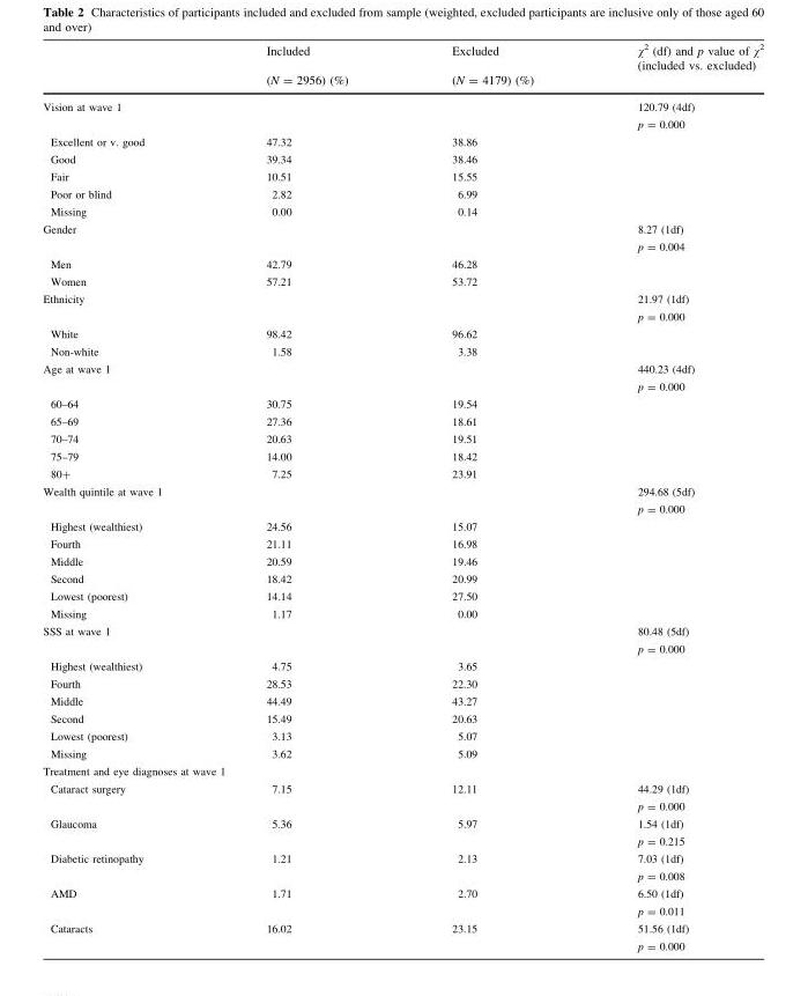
<table><thead><tr><td rowspan="2"></td><td rowspan="2">Included (N = 2956) (%)</td><td rowspan="2">Excluded (N = 4179) (%)</td><td rowspan="2">χ<sup>2</sup> (df) and p value of χ<sup>2</sup> (included vs. excluded)</td></tr><tr></tr></thead><tbody><tr><td>Vision at wave 1</td><td></td><td></td><td>120.79 (4df) p = 0.000</td></tr><tr><td>Excellent or v. good</td><td>47.32</td><td>38.86</td><td></td></tr><tr><td>Good</td><td>39.34</td><td>38.46</td><td></td></tr><tr><td>Fair</td><td>10.51</td><td>15.55</td><td></td></tr><tr><td>Poor or blind</td><td>2.82</td><td>6.99</td><td></td></tr><tr><td>Missing</td><td>0.00</td><td>0.14</td><td></td></tr><tr><td>Gender</td><td></td><td></td><td>8.27 (1df) p = 0.004</td></tr><tr><td>Men</td><td>42.79</td><td>46.28</td><td></td></tr><tr><td>Women</td><td>57.21</td><td>53.72</td><td></td></tr><tr><td>Ethnicity</td><td></td><td></td><td>21.97 (1df) p = 0.000</td></tr><tr><td>White</td><td>98.42</td><td>96.62</td><td></td></tr><tr><td>Non-white</td><td>1.58</td><td>3.38</td><td></td></tr><tr><td>Age at wave 1</td><td></td><td></td><td>440.23 (4df) p = 0.000</td></tr><tr><td>60–64</td><td>30.75</td><td>19.54</td><td></td></tr><tr><td>65–69</td><td>27.36</td><td>18.61</td><td></td></tr><tr><td>70–74</td><td>20.63</td><td>19.51</td><td></td></tr><tr><td>75–79</td><td>14.00</td><td>18.42</td><td></td></tr><tr><td>80+</td><td>7.25</td><td>23.91</td><td></td></tr><tr><td>Wealth quintile at wave 1</td><td></td><td></td><td>294.68 (5df) p = 0.000</td></tr><tr><td>Highest (wealthiest)</td><td>24.56</td><td>15.07</td><td></td></tr><tr><td>Fourth</td><td>21.11</td><td>16.98</td><td></td></tr><tr><td>Middle</td><td>20.59</td><td>19.46</td><td></td></tr><tr><td>Second</td><td>18.42</td><td>20.99</td><td></td></tr><tr><td>Lowest (poorest)</td><td>14.14</td><td>27.50</td><td></td></tr><tr><td>Missing</td><td>1.17</td><td>0.00</td><td></td></tr><tr><td>SSS at wave 1</td><td></td><td></td><td>80.48 (5df) p = 0.000</td></tr><tr><td>Highest (wealthiest)</td><td>4.75</td><td>3.65</td><td></td></tr><tr><td>Fourth</td><td>28.53</td><td>22.30</td><td></td></tr><tr><td>Middle</td><td>44.49</td><td>43.27</td><td></td></tr><tr><td>Second</td><td>15.49</td><td>20.63</td><td></td></tr><tr><td>Lowest (poorest)</td><td>3.13</td><td>5.07</td><td></td></tr><tr><td>Missing</td><td>3.62</td><td>5.09</td><td></td></tr><tr><td colspan="4">Treatment and eye diagnoses at wave 1</td></tr><tr><td>Cataract surgery</td><td>7.15</td><td>12.11</td><td>44.29 (1df) p = 0.000</td></tr><tr><td>Glaucoma</td><td>5.36</td><td>5.97</td><td>1.54 (1df) p = 0.215</td></tr><tr><td>Diabetic retinopathy</td><td>1.21</td><td>2.13</td><td>7.03 (1df) p = 0.008</td></tr><tr><td>AMD</td><td>1.71</td><td>2.70</td><td>6.50 (1df) p = 0.011</td></tr><tr><td>Cataracts</td><td>16.02</td><td>23.15</td><td>51.56 (1df) p = 0.000</td></tr></tbody></table>